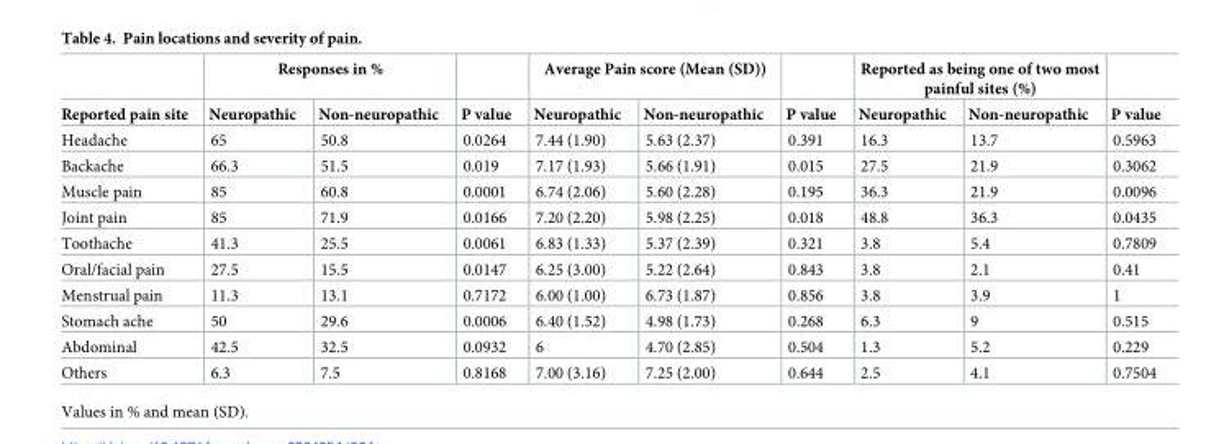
<table><thead><tr><td rowspan="2">Reported pain site</td><td colspan="2">Responses in %</td><td rowspan="2">P value</td><td colspan="2">Average Pain score (Mean (SD))</td><td rowspan="2">P value</td><td colspan="2">Reported as being one of two most painful sites (%)</td><td rowspan="2">P value</td></tr><tr><td>Neuropathic</td><td>Non-neuropathic</td><td>Neuropathic</td><td>Non-neuropathic</td><td>Neuropathic</td><td>Non-neuropathic</td></tr></thead><tbody><tr><td>Headache</td><td>65</td><td>50.8</td><td>0.0264</td><td>7.44 (1.90)</td><td>5.63 (2.37)</td><td>0.391</td><td>16.3</td><td>13.7</td><td>0.5963</td></tr><tr><td>Backache</td><td>66.3</td><td>51.5</td><td>0.019</td><td>7.17 (1.93)</td><td>5.66 (1.91)</td><td>0.015</td><td>27.5</td><td>21.9</td><td>0.3062</td></tr><tr><td>Muscle pain</td><td>85</td><td>60.8</td><td>0.0001</td><td>6.74 (2.06)</td><td>5.60 (2.28)</td><td>0.195</td><td>36.3</td><td>21.9</td><td>0.0096</td></tr><tr><td>Joint pain</td><td>85</td><td>71.9</td><td>0.0166</td><td>7.20 (2.20)</td><td>5.98 (2.25)</td><td>0.018</td><td>48.8</td><td>36.3</td><td>0.0435</td></tr><tr><td>Toothache</td><td>41.3</td><td>25.5</td><td>0.0061</td><td>6.83 (1.33)</td><td>5.37 (2.39)</td><td>0.321</td><td>3.8</td><td>5.4</td><td>0.7809</td></tr><tr><td>Oral/facial pain</td><td>27.5</td><td>15.5</td><td>0.0147</td><td>6.25 (3.00)</td><td>5.22 (2.64)</td><td>0.843</td><td>3.8</td><td>2.1</td><td>0.41</td></tr><tr><td>Menstrual pain</td><td>11.3</td><td>13.1</td><td>0.7172</td><td>6.00 (1.00)</td><td>6.73 (1.87)</td><td>0.856</td><td>3.8</td><td>3.9</td><td>1</td></tr><tr><td>Stomach ache</td><td>50</td><td>29.6</td><td>0.0006</td><td>6.40 (1.52)</td><td>4.98 (1.73)</td><td>0.268</td><td>6.3</td><td>9</td><td>0.515</td></tr><tr><td>Abdominal</td><td>42.5</td><td>32.5</td><td>0.0932</td><td>6</td><td>4.70 (2.85)</td><td>0.504</td><td>1.3</td><td>5.2</td><td>0.229</td></tr><tr><td>Others</td><td>6.3</td><td>7.5</td><td>0.8168</td><td>7.00 (3.16)</td><td>7.25 (2.00)</td><td>0.644</td><td>2.5</td><td>4.1</td><td>0.7504</td></tr></tbody></table>